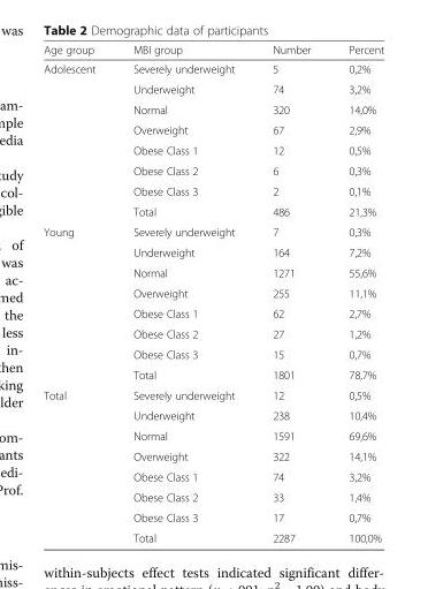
<table><thead><tr><td>Age group</td><td>MBI group</td><td>Number</td><td>Percent</td></tr></thead><tbody><tr><td rowspan="8">Adolescent</td><td>Severely underweight</td><td>5</td><td>0,2%</td></tr><tr><td>Underweight</td><td>74</td><td>3,2%</td></tr><tr><td>Normal</td><td>320</td><td>14,0%</td></tr><tr><td>Overweight</td><td>67</td><td>2,9%</td></tr><tr><td>Obese Class 1</td><td>12</td><td>0,5%</td></tr><tr><td>Obese Class 2</td><td>6</td><td>0,3%</td></tr><tr><td>Obese Class 3</td><td>2</td><td>0,1%</td></tr><tr><td>Total</td><td>486</td><td>21,3%</td></tr><tr><td rowspan="8">Young</td><td>Severely underweight</td><td>7</td><td>0,3%</td></tr><tr><td>Underweight</td><td>164</td><td>7,2%</td></tr><tr><td>Normal</td><td>1271</td><td>55,6%</td></tr><tr><td>Overweight</td><td>255</td><td>11,1%</td></tr><tr><td>Obese Class 1</td><td>62</td><td>2,7%</td></tr><tr><td>Obese Class 2</td><td>27</td><td>1,2%</td></tr><tr><td>Obese Class 3</td><td>15</td><td>0,7%</td></tr><tr><td>Total</td><td>1801</td><td>78,7%</td></tr><tr><td rowspan="8">Total</td><td>Severely underweight</td><td>12</td><td>0,5%</td></tr><tr><td>Underweight</td><td>238</td><td>10,4%</td></tr><tr><td>Normal</td><td>1591</td><td>69,6%</td></tr><tr><td>Overweight</td><td>322</td><td>14,1%</td></tr><tr><td>Obese Class 1</td><td>74</td><td>3,2%</td></tr><tr><td>Obese Class 2</td><td>33</td><td>1,4%</td></tr><tr><td>Obese Class 3</td><td>17</td><td>0,7%</td></tr><tr><td>Total</td><td>2287</td><td>100,0%</td></tr></tbody></table>